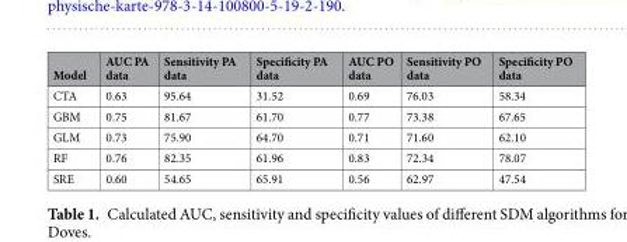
<table><thead><tr><td>Model</td><td>AUC PA data</td><td>Sensitivity PA data</td><td>Specificity PA data</td><td>AUC PO data</td><td>Sensitivity PO data</td><td>Specificity PO data</td></tr></thead><tbody><tr><td>CTA</td><td>0.63</td><td>95.64</td><td>31.52</td><td>0.69</td><td>76.03</td><td>58.34</td></tr><tr><td>GBM</td><td>0.75</td><td>81.67</td><td>61.70</td><td>0.77</td><td>73.38</td><td>67.65</td></tr><tr><td>GLM</td><td>0.73</td><td>75.90</td><td>64.70</td><td>0.71</td><td>71.60</td><td>62.10</td></tr><tr><td>RF</td><td>0.76</td><td>82.35</td><td>61.96</td><td>0.83</td><td>72.34</td><td>78.07</td></tr><tr><td>SRE</td><td>0.60</td><td>54.65</td><td>65.91</td><td>0.56</td><td>62.97</td><td>47.54</td></tr></tbody></table>